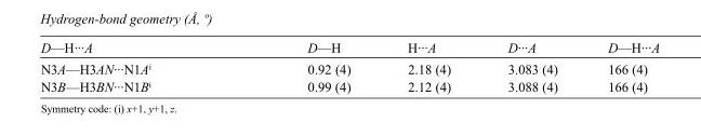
<table><tbody><tr><td>D—H···A</td><td>D—H</td><td>H···A</td><td>D···A</td><td>D—H···A</td></tr><tr><td>N3A—H3AN···N1A<sup>i</sup></td><td>0.92 (4)</td><td>2.18 (4)</td><td>3.083 (4)</td><td>166 (4)</td></tr><tr><td>N3B—H3BN···N1B<sup>i</sup></td><td>0.99 (4)</td><td>2.12 (4)</td><td>3.088 (4)</td><td>166 (4)</td></tr></tbody></table>